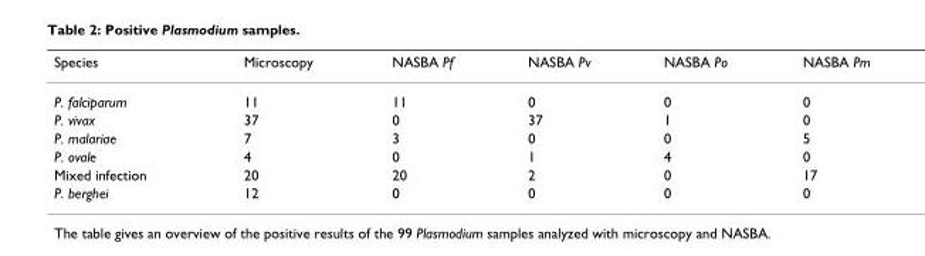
<table><thead><tr><td>Species</td><td>Microscopy</td><td>NASBA Pf</td><td>NASBA Pv</td><td>NASBA Po</td><td>NASBA Pm</td></tr></thead><tbody><tr><td>P. falciparum</td><td>11</td><td>11</td><td>0</td><td>0</td><td>0</td></tr><tr><td>P. vivax</td><td>37</td><td>0</td><td>37</td><td>1</td><td>0</td></tr><tr><td>P. malariae</td><td>7</td><td>3</td><td>0</td><td>0</td><td>5</td></tr><tr><td>P. ovale</td><td>4</td><td>0</td><td>1</td><td>4</td><td>0</td></tr><tr><td>Mixed infection</td><td>20</td><td>20</td><td>2</td><td>0</td><td>17</td></tr><tr><td>P. berghei</td><td>12</td><td>0</td><td>0</td><td>0</td><td>0</td></tr></tbody></table>